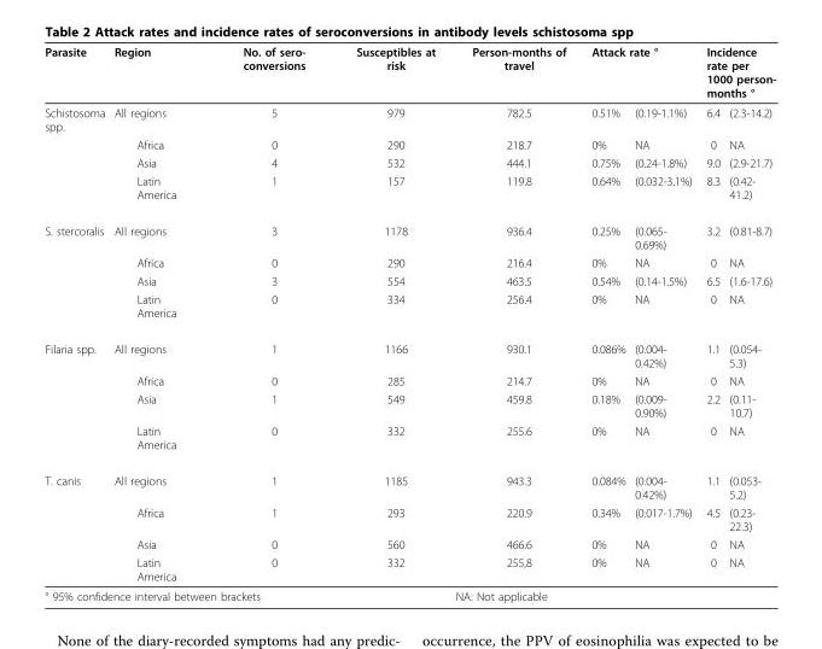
<table><thead><tr><td rowspan="2">Parasite Schistosoma spp.</td><td rowspan="2">Region All regions</td><td rowspan="2">No. of sero- conversions 5</td><td rowspan="2">Susceptibles at risk 979</td><td rowspan="2">Person-months of travel 782.5</td><td colspan="2">Attack rate °</td><td colspan="2">Incidence rate per 1000 person- months °</td></tr><tr><td>0.51%</td><td>(0.19-1.1%)</td><td>6.4</td><td>(2.3-14.2)</td></tr></thead><tbody><tr><td></td><td>Africa</td><td>0</td><td>290</td><td>218.7</td><td>0%</td><td>NA</td><td>0</td><td>NA</td></tr><tr><td></td><td>Asia</td><td>4</td><td>532</td><td>444.1</td><td>0.75%</td><td>(0.24-1.8%)</td><td>9.0</td><td>(2.9-21.7)</td></tr><tr><td></td><td>Latin America</td><td>1</td><td>157</td><td>119.8</td><td>0.64%</td><td>(0.032-3.1%)</td><td>8.3</td><td>(0.42- 41.2)</td></tr><tr><td rowspan="4">S. stercoralis</td><td>All regions</td><td>3</td><td>1178</td><td>936.4</td><td>0.25%</td><td>(0.065- 0.69%)</td><td>3.2</td><td>(0.81-8.7)</td></tr><tr><td>Africa</td><td>0</td><td>290</td><td>216.4</td><td>0%</td><td>NA</td><td>0</td><td>NA</td></tr><tr><td>Asia</td><td>3</td><td>554</td><td>463.5</td><td>0.54%</td><td>(0.14-1.5%)</td><td>6.5</td><td>(1.6-17.6)</td></tr><tr><td>Latin America</td><td>0</td><td>334</td><td>256.4</td><td>0%</td><td>NA</td><td>0</td><td>NA</td></tr><tr><td rowspan="4">Filaria spp.</td><td>All regions</td><td>1</td><td>1166</td><td>930.1</td><td>0.086%</td><td>(0.004- 0.42%)</td><td>1.1</td><td>(0.054- 5.3)</td></tr><tr><td>Africa</td><td>0</td><td>285</td><td>214.7</td><td>0%</td><td>NA</td><td>0</td><td>NA</td></tr><tr><td>Asia</td><td>1</td><td>549</td><td>459.8</td><td>0.18%</td><td>(0.009- 0.90%)</td><td>2.2</td><td>(0.11- 10.7)</td></tr><tr><td>Latin America</td><td>0</td><td>332</td><td>255.6</td><td>0%</td><td>NA</td><td>0</td><td>NA</td></tr><tr><td rowspan="4">T. canis</td><td>All regions</td><td>1</td><td>1185</td><td>943.3</td><td>0.084%</td><td>(0.004- 0.42%)</td><td>1.1</td><td>(0.053- 5.2)</td></tr><tr><td>Africa</td><td>1</td><td>293</td><td>220.9</td><td>0.34%</td><td>(0.017-1.7%)</td><td>4.5</td><td>(0.23- 22.3)</td></tr><tr><td>Asia</td><td>0</td><td>560</td><td>466.6</td><td>0%</td><td>NA</td><td>0</td><td>NA</td></tr><tr><td>Latin America</td><td>0</td><td>332</td><td>255,8</td><td>0%</td><td>NA</td><td>0</td><td>NA</td></tr><tr><td colspan="4">° 95% confidence interval between brackets</td><td colspan="2">NA: Not applicable</td><td></td><td></td><td></td></tr></tbody></table>